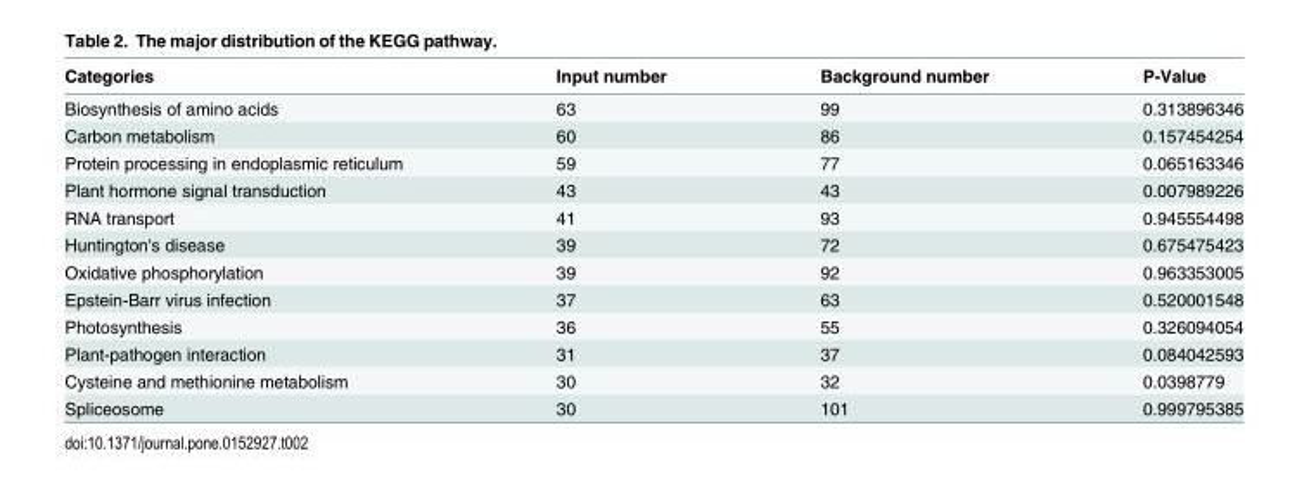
<table><thead><tr><td>Categories</td><td>Input number</td><td>Background number</td><td>P-Value</td></tr></thead><tbody><tr><td>Biosynthesis of amino acids</td><td>63</td><td>99</td><td>0.313896346</td></tr><tr><td>Carbon metabolism</td><td>60</td><td>86</td><td>0.157454254</td></tr><tr><td>Protein processing in endoplasmic reticulum</td><td>59</td><td>77</td><td>0.065163346</td></tr><tr><td>Plant hormone signal transduction</td><td>43</td><td>43</td><td>0.007989226</td></tr><tr><td>RNA transport</td><td>41</td><td>93</td><td>0.945554498</td></tr><tr><td>Huntington&#x27;s disease</td><td>39</td><td>72</td><td>0.675475423</td></tr><tr><td>Oxidative phosphorylation</td><td>39</td><td>92</td><td>0.963353005</td></tr><tr><td>Epstein-Barr virus infection</td><td>37</td><td>63</td><td>0.520001548</td></tr><tr><td>Photosynthesis</td><td>36</td><td>55</td><td>0.326094054</td></tr><tr><td>Plant-pathogen interaction</td><td>31</td><td>37</td><td>0.084042593</td></tr><tr><td>Cysteine and methionine metabolism</td><td>30</td><td>32</td><td>0.0398779</td></tr><tr><td>Spliceosome</td><td>30</td><td>101</td><td>0.999795385</td></tr></tbody></table>